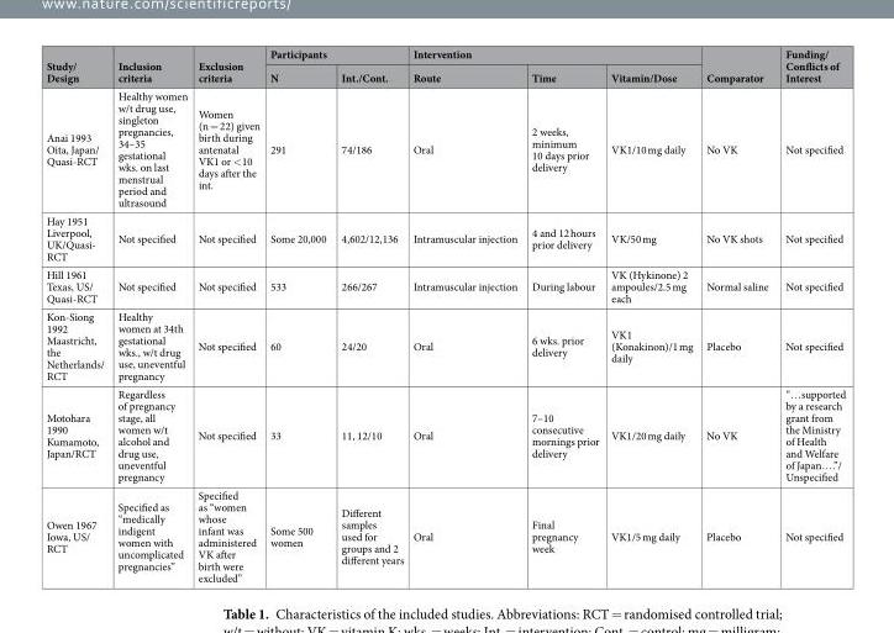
<table><thead><tr><td rowspan="2">Study/ Design</td><td rowspan="2">Inclusion criteria</td><td rowspan="2">Exclusion criteria</td><td colspan="2">Participants</td><td colspan="3">Intervention</td><td rowspan="2">Comparator</td><td rowspan="2">Funding/ Conflicts of Interest</td></tr><tr><td>N</td><td>Int./Cont.</td><td>Route</td><td>Time</td><td>Vitamin/Dose</td></tr></thead><tbody><tr><td>Anai 1993 Oita, Japan/ Quasi-RCT</td><td>Healthy women w/t drug use, singleton pregnancies, 34–35 gestational wks. on last menstrual period and ultrasound</td><td>Women (n = 22) given birth during antenatal VK1 or &lt;10 days after the int.</td><td>291</td><td>74/186</td><td>Oral</td><td>2 weeks, minimum 10 days prior delivery</td><td>VK1/10 mg daily</td><td>No VK</td><td>Not specified</td></tr><tr><td>Hay 1951 Liverpool, UK/Quasi- RCT</td><td>Not specified</td><td>Not specified</td><td>Some 20,000</td><td>4,602/12,136</td><td>Intramuscular injection</td><td>4 and 12 hours prior delivery</td><td>VK/50 mg</td><td>No VK shots</td><td>Not specified</td></tr><tr><td>Hill 1961 Texas, US/ Quasi-RCT</td><td>Not specified</td><td>Not specified</td><td>533</td><td>266/267</td><td>Intramuscular injection</td><td>During labour</td><td>VK (Hykinone) 2 ampoules/2.5 mg each</td><td>Normal saline</td><td>Not specified</td></tr><tr><td>Kon-Siong 1992 Maastricht, the Netherlands/ RCT</td><td>Healthy women at 34th gestational wks., w/t drug use, uneventful pregnancy</td><td>Not specified</td><td>60</td><td>24/20</td><td>Oral</td><td>6 wks. prior delivery</td><td>VK1 (Konakinon)/1 mg daily</td><td>Placebo</td><td>Not specified</td></tr><tr><td>Motohara 1990 Kumamoto, Japan/RCT</td><td>Regardless of pregnancy stage, all women w/t alcohol and drug use, uneventful pregnancy</td><td>Not specified</td><td>33</td><td>11, 12/10</td><td>Oral</td><td>7–10 consecutive mornings prior delivery</td><td>VK1/20 mg daily</td><td>No VK</td><td>“…supported by a research grant from the Ministry of Health and Welfare of Japan….”/ Unspecified</td></tr><tr><td>Owen 1967 Iowa, US/ RCT</td><td>Specified as “medically indigent women with uncomplicated pregnancies”</td><td>Specified as “women whose infant was administered VK after birth were excluded”</td><td>Some 500 women</td><td>Different samples used for groups and 2 different years</td><td>Oral</td><td>Final pregnancy week</td><td>VK1/5 mg daily</td><td>Placebo</td><td>Not specified</td></tr></tbody></table>